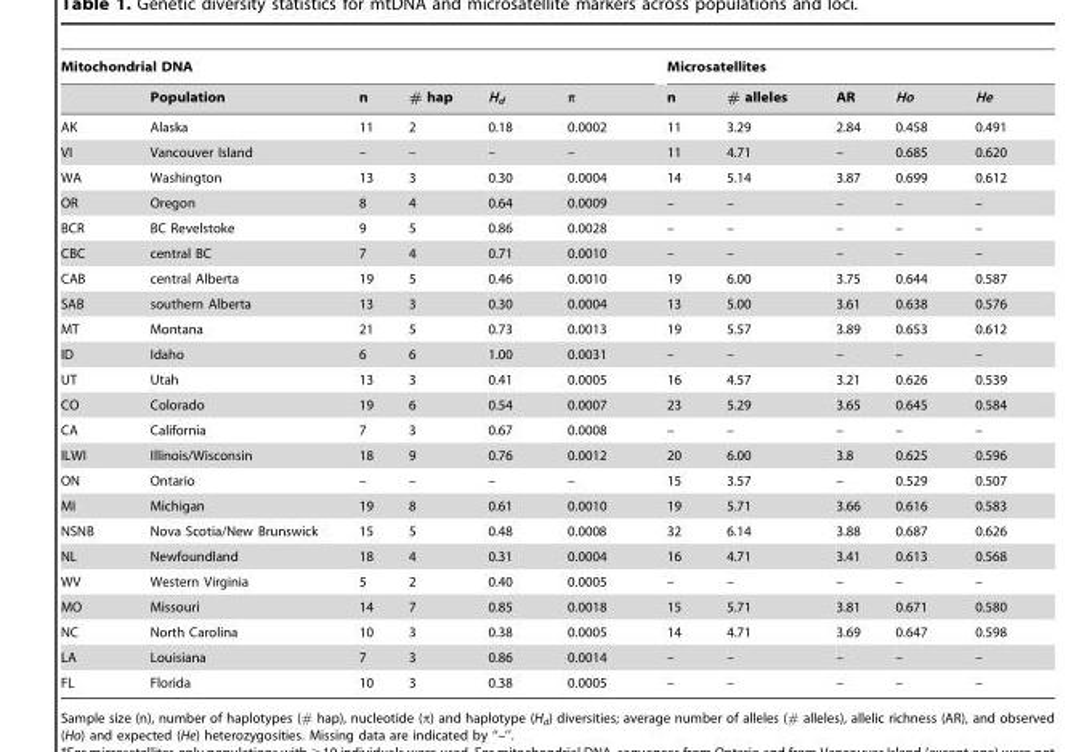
<table><thead><tr><td colspan="6">Mitochondrial DNA</td><td colspan="5">Microsatellites</td></tr><tr><td></td><td>Population</td><td>n</td><td># hap</td><td>H<sub>d</sub></td><td>π</td><td>n</td><td># alleles</td><td>AR</td><td>Ho</td><td>He</td></tr></thead><tbody><tr><td>AK</td><td>Alaska</td><td>11</td><td>2</td><td>0.18</td><td>0.0002</td><td>11</td><td>3.29</td><td>2.84</td><td>0.458</td><td>0.491</td></tr><tr><td>VI</td><td>Vancouver Island</td><td>–</td><td>–</td><td>–</td><td>–</td><td>11</td><td>4.71</td><td>–</td><td>0.685</td><td>0.620</td></tr><tr><td>WA</td><td>Washington</td><td>13</td><td>3</td><td>0.30</td><td>0.0004</td><td>14</td><td>5.14</td><td>3.87</td><td>0.699</td><td>0.612</td></tr><tr><td>OR</td><td>Oregon</td><td>8</td><td>4</td><td>0.64</td><td>0.0009</td><td>–</td><td>–</td><td>–</td><td>–</td><td>–</td></tr><tr><td>BCR</td><td>BC Revelstoke</td><td>9</td><td>5</td><td>0.86</td><td>0.0028</td><td>–</td><td>–</td><td>–</td><td>–</td><td>–</td></tr><tr><td>CBC</td><td>central BC</td><td>7</td><td>4</td><td>0.71</td><td>0.0010</td><td>–</td><td>–</td><td>–</td><td>–</td><td>–</td></tr><tr><td>CAB</td><td>central Alberta</td><td>19</td><td>5</td><td>0.46</td><td>0.0010</td><td>19</td><td>6.00</td><td>3.75</td><td>0.644</td><td>0.587</td></tr><tr><td>SAB</td><td>southern Alberta</td><td>13</td><td>3</td><td>0.30</td><td>0.0004</td><td>13</td><td>5.00</td><td>3.61</td><td>0.638</td><td>0.576</td></tr><tr><td>MT</td><td>Montana</td><td>21</td><td>5</td><td>0.73</td><td>0.0013</td><td>19</td><td>5.57</td><td>3.89</td><td>0.653</td><td>0.612</td></tr><tr><td>ID</td><td>Idaho</td><td>6</td><td>6</td><td>1.00</td><td>0.0031</td><td>–</td><td>–</td><td>–</td><td>–</td><td>–</td></tr><tr><td>UT</td><td>Utah</td><td>13</td><td>3</td><td>0.41</td><td>0.0005</td><td>16</td><td>4.57</td><td>3.21</td><td>0.626</td><td>0.539</td></tr><tr><td>CO</td><td>Colorado</td><td>19</td><td>6</td><td>0.54</td><td>0.0007</td><td>23</td><td>5.29</td><td>3.65</td><td>0.645</td><td>0.584</td></tr><tr><td>CA</td><td>California</td><td>7</td><td>3</td><td>0.67</td><td>0.0008</td><td>–</td><td>–</td><td>–</td><td>–</td><td>–</td></tr><tr><td>ILWI</td><td>Illinois/Wisconsin</td><td>18</td><td>9</td><td>0.76</td><td>0.0012</td><td>20</td><td>6.00</td><td>3.8</td><td>0.625</td><td>0.596</td></tr><tr><td>ON</td><td>Ontario</td><td>–</td><td>–</td><td>–</td><td>–</td><td>15</td><td>3.57</td><td>–</td><td>0.529</td><td>0.507</td></tr><tr><td>MI</td><td>Michigan</td><td>19</td><td>8</td><td>0.61</td><td>0.0010</td><td>19</td><td>5.71</td><td>3.66</td><td>0.616</td><td>0.583</td></tr><tr><td>NSNB</td><td>Nova Scotia/New Brunswick</td><td>15</td><td>5</td><td>0.48</td><td>0.0008</td><td>32</td><td>6.14</td><td>3.88</td><td>0.687</td><td>0.626</td></tr><tr><td>NL</td><td>Newfoundland</td><td>18</td><td>4</td><td>0.31</td><td>0.0004</td><td>16</td><td>4.71</td><td>3.41</td><td>0.613</td><td>0.568</td></tr><tr><td>WV</td><td>Western Virginia</td><td>5</td><td>2</td><td>0.40</td><td>0.0005</td><td>–</td><td>–</td><td>–</td><td>–</td><td>–</td></tr><tr><td>MO</td><td>Missouri</td><td>14</td><td>7</td><td>0.85</td><td>0.0018</td><td>15</td><td>5.71</td><td>3.81</td><td>0.671</td><td>0.580</td></tr><tr><td>NC</td><td>North Carolina</td><td>10</td><td>3</td><td>0.38</td><td>0.0005</td><td>14</td><td>4.71</td><td>3.69</td><td>0.647</td><td>0.598</td></tr><tr><td>LA</td><td>Louisiana</td><td>7</td><td>3</td><td>0.86</td><td>0.0014</td><td>–</td><td>–</td><td>–</td><td>–</td><td>–</td></tr><tr><td>FL</td><td>Florida</td><td>10</td><td>3</td><td>0.38</td><td>0.0005</td><td>–</td><td>–</td><td>–</td><td>–</td><td>–</td></tr></tbody></table>